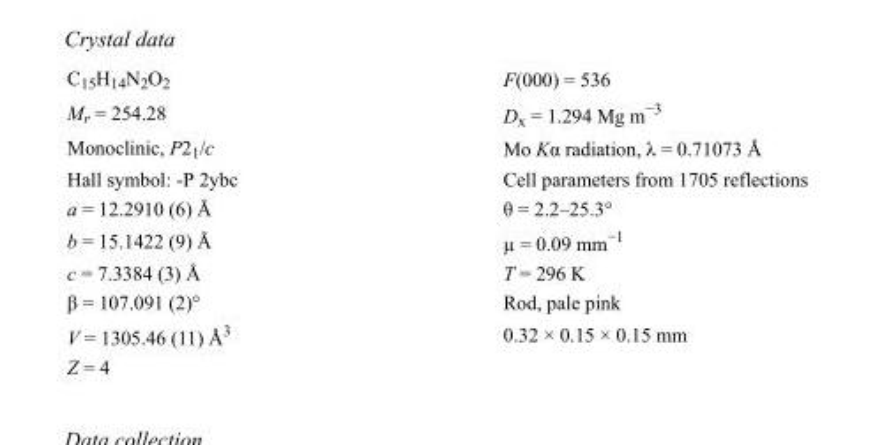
<table><tbody><tr><td>C<sub>15</sub>H<sub>14</sub>N<sub>2</sub>O<sub>2</sub></td><td>F(000) = 536</td></tr><tr><td>M<sub>r</sub> = 254.28</td><td>D<sub>x</sub> = 1.294 Mg m<sup>−3</sup></td></tr><tr><td>Monoclinic, P2<sub>1</sub>/c</td><td>Mo Kα radiation, λ = 0.71073 Å</td></tr><tr><td>Hall symbol: -P 2ybc</td><td>Cell parameters from 1705 reflections</td></tr><tr><td>a = 12.2910 (6) Å</td><td>θ = 2.2–25.3°</td></tr><tr><td>b = 15.1422 (9) Å</td><td>µ = 0.09 mm<sup>−1</sup></td></tr><tr><td>c = 7.3384 (3) Å</td><td>T = 296 K</td></tr><tr><td>β = 107.091 (2)°</td><td>Rod, pale pink</td></tr><tr><td>V = 1305.46 (11) Å<sup>3</sup></td><td>0.32 × 0.15 × 0.15 mm</td></tr><tr><td>Z = 4</td><td></td></tr></tbody></table>